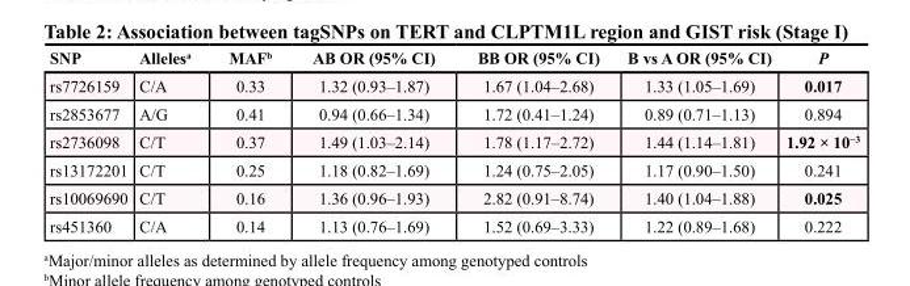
<table><thead><tr><td>SNP</td><td>Alleles<sup>a</sup></td><td>MAF<sup>b</sup></td><td>AB OR (95% CI)</td><td>BB OR (95% CI)</td><td>B vs A OR (95% CI)</td><td>P</td></tr></thead><tbody><tr><td>rs7726159</td><td>C/A</td><td>0.33</td><td>1.32 (0.93–1.87)</td><td>1.67 (1.04–2.68)</td><td>1.33 (1.05–1.69)</td><td>0.017</td></tr><tr><td>rs2853677</td><td>A/G</td><td>0.41</td><td>0.94 (0.66–1.34)</td><td>1.72 (0.41–1.24)</td><td>0.89 (0.71–1.13)</td><td>0.894</td></tr><tr><td>rs2736098</td><td>C/T</td><td>0.37</td><td>1.49 (1.03–2.14)</td><td>1.78 (1.17–2.72)</td><td>1.44 (1.14–1.81)</td><td>1.92 × 10<sup>−3</sup></td></tr><tr><td>rs13172201</td><td>C/T</td><td>0.25</td><td>1.18 (0.82–1.69)</td><td>1.24 (0.75–2.05)</td><td>1.17 (0.90–1.50)</td><td>0.241</td></tr><tr><td>rs10069690</td><td>C/T</td><td>0.16</td><td>1.36 (0.96–1.93)</td><td>2.82 (0.91–8.74)</td><td>1.40 (1.04–1.88)</td><td>0.025</td></tr><tr><td>rs451360</td><td>C/A</td><td>0.14</td><td>1.13 (0.76–1.69)</td><td>1.52 (0.69–3.33)</td><td>1.22 (0.89–1.68)</td><td>0.222</td></tr></tbody></table>